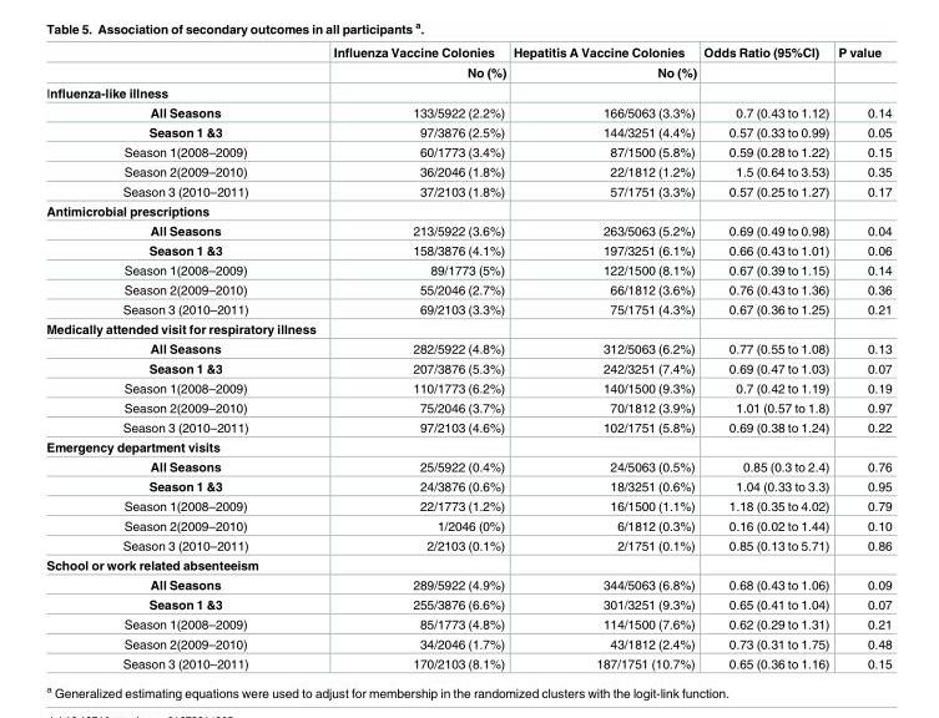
<table><thead><tr><td rowspan="2"></td><td rowspan="2">Influenza Vaccine Colonies No (%)</td><td rowspan="2">Hepatitis A Vaccine Colonies No (%)</td><td rowspan="2">Odds Ratio (95%CI)</td><td rowspan="2">P value</td></tr><tr></tr></thead><tbody><tr><td colspan="5">Influenza-like illness</td></tr><tr><td>All Seasons</td><td>133/5922 (2.2%)</td><td>166/5063 (3.3%)</td><td>0.7 (0.43 to 1.12)</td><td>0.14</td></tr><tr><td>Season 1 &amp;3</td><td>97/3876 (2.5%)</td><td>144/3251 (4.4%)</td><td>0.57 (0.33 to 0.99)</td><td>0.05</td></tr><tr><td>Season 1(2008–2009)</td><td>60/1773 (3.4%)</td><td>87/1500 (5.8%)</td><td>0.59 (0.28 to 1.22)</td><td>0.15</td></tr><tr><td>Season 2(2009–2010)</td><td>36/2046 (1.8%)</td><td>22/1812 (1.2%)</td><td>1.5 (0.64 to 3.53)</td><td>0.35</td></tr><tr><td>Season 3 (2010–2011)</td><td>37/2103 (1.8%)</td><td>57/1751 (3.3%)</td><td>0.57 (0.25 to 1.27)</td><td>0.17</td></tr><tr><td colspan="5">Antimicrobial prescriptions</td></tr><tr><td>All Seasons</td><td>213/5922 (3.6%)</td><td>263/5063 (5.2%)</td><td>0.69 (0.49 to 0.98)</td><td>0.04</td></tr><tr><td>Season 1 &amp;3</td><td>158/3876 (4.1%)</td><td>197/3251 (6.1%)</td><td>0.66 (0.43 to 1.01)</td><td>0.06</td></tr><tr><td>Season 1(2008–2009)</td><td>89/1773 (5%)</td><td>122/1500 (8.1%)</td><td>0.67 (0.39 to 1.15)</td><td>0.14</td></tr><tr><td>Season 2(2009–2010)</td><td>55/2046 (2.7%)</td><td>66/1812 (3.6%)</td><td>0.76 (0.43 to 1.36)</td><td>0.36</td></tr><tr><td>Season 3 (2010–2011)</td><td>69/2103 (3.3%)</td><td>75/1751 (4.3%)</td><td>0.67 (0.36 to 1.25)</td><td>0.21</td></tr><tr><td colspan="5">Medically attended visit for respiratory illness</td></tr><tr><td>All Seasons</td><td>282/5922 (4.8%)</td><td>312/5063 (6.2%)</td><td>0.77 (0.55 to 1.08)</td><td>0.13</td></tr><tr><td>Season 1 &amp;3</td><td>207/3876 (5.3%)</td><td>242/3251 (7.4%)</td><td>0.69 (0.47 to 1.03)</td><td>0.07</td></tr><tr><td>Season 1(2008–2009)</td><td>110/1773 (6.2%)</td><td>140/1500 (9.3%)</td><td>0.7 (0.42 to 1.19)</td><td>0.19</td></tr><tr><td>Season 2(2009–2010)</td><td>75/2046 (3.7%)</td><td>70/1812 (3.9%)</td><td>1.01 (0.57 to 1.8)</td><td>0.97</td></tr><tr><td>Season 3 (2010–2011)</td><td>97/2103 (4.6%)</td><td>102/1751 (5.8%)</td><td>0.69 (0.38 to 1.24)</td><td>0.22</td></tr><tr><td colspan="5">Emergency department visits</td></tr><tr><td>All Seasons</td><td>25/5922 (0.4%)</td><td>24/5063 (0.5%)</td><td>0.85 (0.3 to 2.4)</td><td>0.76</td></tr><tr><td>Season 1 &amp;3</td><td>24/3876 (0.6%)</td><td>18/3251 (0.6%)</td><td>1.04 (0.33 to 3.3)</td><td>0.95</td></tr><tr><td>Season 1(2008–2009)</td><td>22/1773 (1.2%)</td><td>16/1500 (1.1%)</td><td>1.18 (0.35 to 4.02)</td><td>0.79</td></tr><tr><td>Season 2(2009–2010)</td><td>1/2046 (0%)</td><td>6/1812 (0.3%)</td><td>0.16 (0.02 to 1.44)</td><td>0.10</td></tr><tr><td>Season 3 (2010–2011)</td><td>2/2103 (0.1%)</td><td>2/1751 (0.1%)</td><td>0.85 (0.13 to 5.71)</td><td>0.86</td></tr><tr><td colspan="5">School or work related absenteeism</td></tr><tr><td>All Seasons</td><td>289/5922 (4.9%)</td><td>344/5063 (6.8%)</td><td>0.68 (0.43 to 1.06)</td><td>0.09</td></tr><tr><td>Season 1 &amp;3</td><td>255/3876 (6.6%)</td><td>301/3251 (9.3%)</td><td>0.65 (0.41 to 1.04)</td><td>0.07</td></tr><tr><td>Season 1(2008–2009)</td><td>85/1773 (4.8%)</td><td>114/1500 (7.6%)</td><td>0.62 (0.29 to 1.31)</td><td>0.21</td></tr><tr><td>Season 2(2009–2010)</td><td>34/2046 (1.7%)</td><td>43/1812 (2.4%)</td><td>0.73 (0.31 to 1.75)</td><td>0.48</td></tr><tr><td>Season 3 (2010–2011)</td><td>170/2103 (8.1%)</td><td>187/1751 (10.7%)</td><td>0.65 (0.36 to 1.16)</td><td>0.15</td></tr></tbody></table>